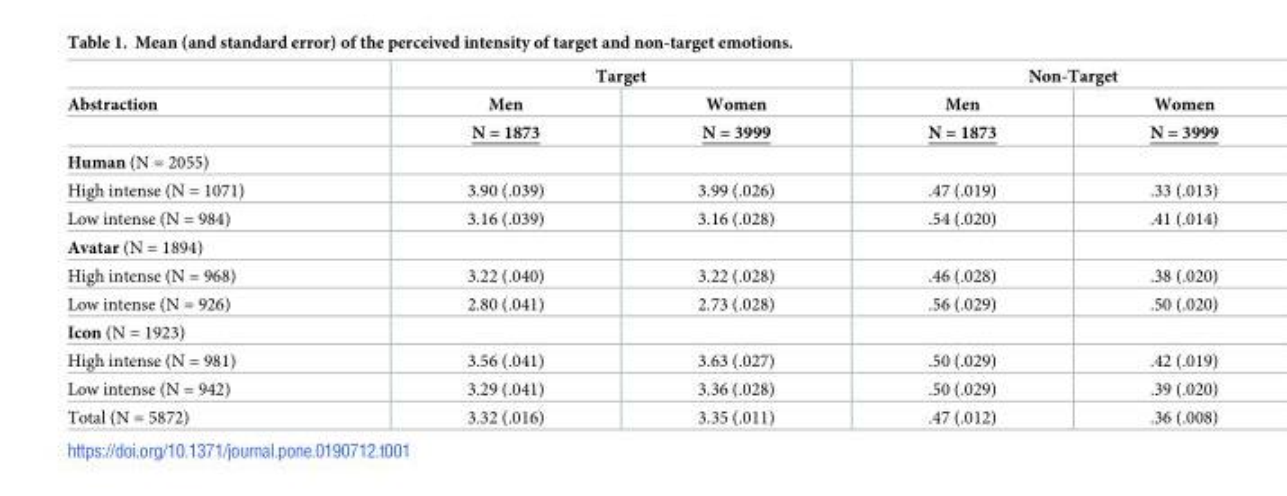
<table><thead><tr><td rowspan="3">Abstraction</td><td colspan="2">Target</td><td colspan="2">Non-Target</td></tr><tr><td rowspan="2">Men N = 1873</td><td rowspan="2">Women N = 3999</td><td rowspan="2">Men N = 1873</td><td rowspan="2">Women N = 3999</td></tr><tr></tr></thead><tbody><tr><td colspan="5">Human (N = 2055)</td></tr><tr><td>High intense (N = 1071)</td><td>3.90 (.039)</td><td>3.99 (.026)</td><td>.47 (.019)</td><td>.33 (.013)</td></tr><tr><td>Low intense (N = 984)</td><td>3.16 (.039)</td><td>3.16 (.028)</td><td>.54 (.020)</td><td>.41 (.014)</td></tr><tr><td colspan="5">Avatar (N = 1894)</td></tr><tr><td>High intense (N = 968)</td><td>3.22 (.040)</td><td>3.22 (.028)</td><td>.46 (.028)</td><td>.38 (.020)</td></tr><tr><td>Low intense (N = 926)</td><td>2.80 (.041)</td><td>2.73 (.028)</td><td>.56 (.029)</td><td>.50 (.020)</td></tr><tr><td colspan="5">Icon (N = 1923)</td></tr><tr><td>High intense (N = 981)</td><td>3.56 (.041)</td><td>3.63 (.027)</td><td>.50 (.029)</td><td>.42 (.019)</td></tr><tr><td>Low intense (N = 942)</td><td>3.29 (.041)</td><td>3.36 (.028)</td><td>.50 (.029)</td><td>.39 (.020)</td></tr><tr><td>Total (N = 5872)</td><td>3.32 (.016)</td><td>3.35 (.011)</td><td>.47 (.012)</td><td>.36 (.008)</td></tr></tbody></table>